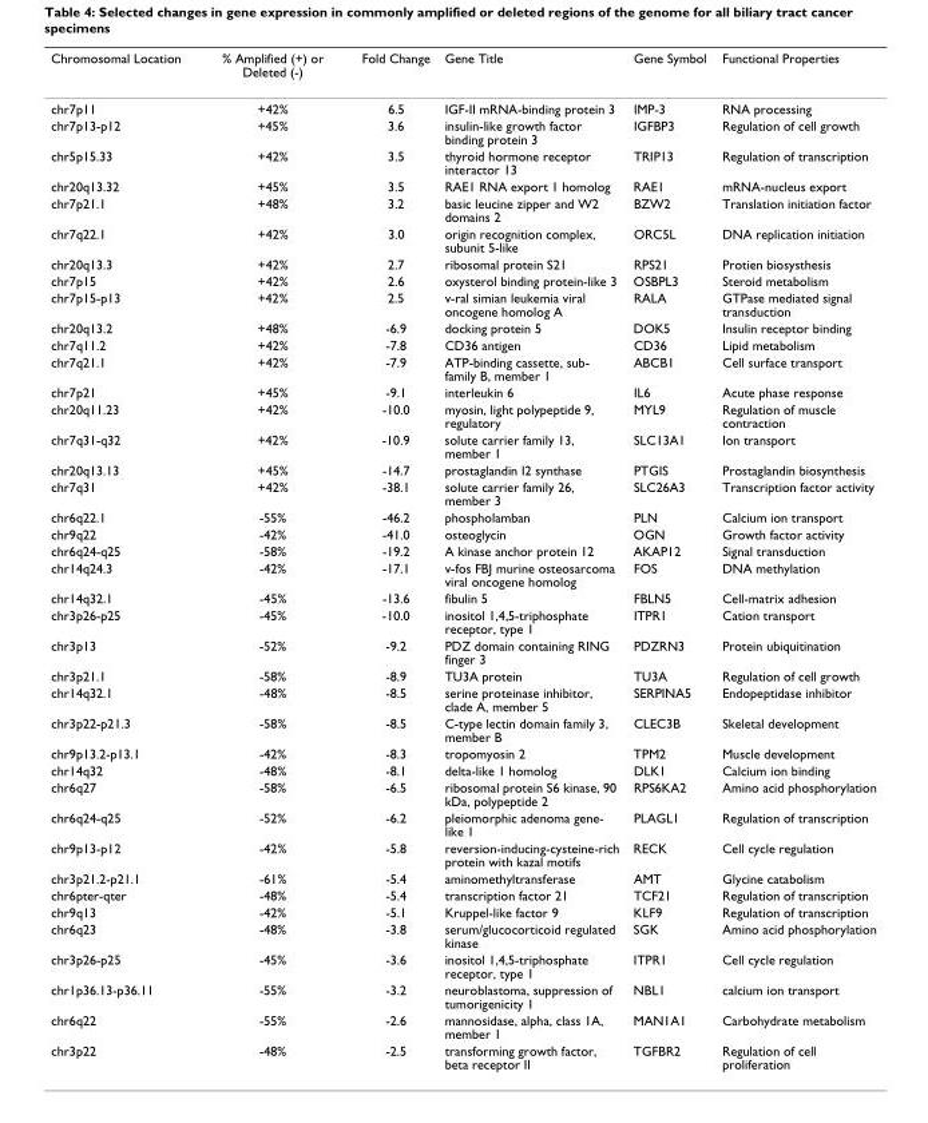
<table><thead><tr><td>Chromosomal Location</td><td>% Amplified (+) or Deleted (-)</td><td>Fold Change</td><td>Gene Title</td><td>Gene Symbol</td><td>Functional Properties</td></tr></thead><tbody><tr><td>chr7p11</td><td>+42%</td><td>6.5</td><td>IGF-II mRNA-binding protein 3</td><td>IMP-3</td><td>RNA processing</td></tr><tr><td>chr7p13-p12</td><td>+45%</td><td>3.6</td><td>insulin-like growth factor binding protein 3</td><td>IGFBP3</td><td>Regulation of cell growth</td></tr><tr><td>chr5p15.33</td><td>+42%</td><td>3.5</td><td>thyroid hormone receptor interactor 13</td><td>TRIP13</td><td>Regulation of transcription</td></tr><tr><td>chr20q13.32</td><td>+45%</td><td>3.5</td><td>RAE1 RNA export 1 homolog</td><td>RAE1</td><td>mRNA-nucleus export</td></tr><tr><td>chr7p21.1</td><td>+48%</td><td>3.2</td><td>basic leucine zipper and W2 domains 2</td><td>BZW2</td><td>Translation initiation factor</td></tr><tr><td>chr7q22.1</td><td>+42%</td><td>3.0</td><td>origin recognition complex, subunit 5-like</td><td>ORC5L</td><td>DNA replication initiation</td></tr><tr><td>chr20q13.3</td><td>+42%</td><td>2.7</td><td>ribosomal protein S21</td><td>RPS21</td><td>Protien biosysthesis</td></tr><tr><td>chr7p15</td><td>+42%</td><td>2.6</td><td>oxysterol binding protein-like 3</td><td>OSBPL3</td><td>Steroid metabolism</td></tr><tr><td>chr7p15-p13</td><td>+42%</td><td>2.5</td><td>v-ral simian leukemia viral oncogene homolog A</td><td>RALA</td><td>GTPase mediated signal transduction</td></tr><tr><td>chr20q13.2</td><td>+48%</td><td>-6.9</td><td>docking protein 5</td><td>DOK5</td><td>Insulin receptor binding</td></tr><tr><td>chr7q11.2</td><td>+42%</td><td>-7.8</td><td>CD36 antigen</td><td>CD36</td><td>Lipid metabolism</td></tr><tr><td>chr7q21.1</td><td>+42%</td><td>-7.9</td><td>ATP-binding cassette, sub- family B, member 1</td><td>ABCB1</td><td>Cell surface transport</td></tr><tr><td>chr7p21</td><td>+45%</td><td>-9.1</td><td>interleukin 6</td><td>IL6</td><td>Acute phase response</td></tr><tr><td>chr20q11.23</td><td>+42%</td><td>-10.0</td><td>myosin, light polypeptide 9, regulatory</td><td>MYL9</td><td>Regulation of muscle contraction</td></tr><tr><td>chr7q31-q32</td><td>+42%</td><td>-10.9</td><td>solute carrier family 13, member 1</td><td>SLC13A1</td><td>Ion transport</td></tr><tr><td>chr20q13.13</td><td>+45%</td><td>-14.7</td><td>prostaglandin I2 synthase</td><td>PTGIS</td><td>Prostaglandin biosynthesis</td></tr><tr><td>chr7q31</td><td>+42%</td><td>-38.1</td><td>solute carrier family 26, member 3</td><td>SLC26A3</td><td>Transcription factor activity</td></tr><tr><td>chr6q22.1</td><td>-55%</td><td>-46.2</td><td>phospholamban</td><td>PLN</td><td>Calcium ion transport</td></tr><tr><td>chr9q22</td><td>-42%</td><td>-41.0</td><td>osteoglycin</td><td>OGN</td><td>Growth factor activity</td></tr><tr><td>chr6q24-q25</td><td>-58%</td><td>-19.2</td><td>A kinase anchor protein 12</td><td>AKAP12</td><td>Signal transduction</td></tr><tr><td>chr14q24.3</td><td>-42%</td><td>-17.1</td><td>v-fos FBJ murine osteosarcoma viral oncogene homolog</td><td>FOS</td><td>DNA methylation</td></tr><tr><td>chr14q32.1</td><td>-45%</td><td>-13.6</td><td>fibulin 5</td><td>FBLN5</td><td>Cell-matrix adhesion</td></tr><tr><td>chr3p26-p25</td><td>-45%</td><td>-10.0</td><td>inositol 1,4,5-triphosphate receptor, type 1</td><td>ITPR1</td><td>Cation transport</td></tr><tr><td>chr3p13</td><td>-52%</td><td>-9.2</td><td>PDZ domain containing RING finger 3</td><td>PDZRN3</td><td>Protein ubiquitination</td></tr><tr><td>chr3p21.1</td><td>-58%</td><td>-8.9</td><td>TU3A protein</td><td>TU3A</td><td>Regulation of cell growth</td></tr><tr><td>chr14q32.1</td><td>-48%</td><td>-8.5</td><td>serine proteinase inhibitor, clade A, member 5</td><td>SERPINA5</td><td>Endopeptidase inhibitor</td></tr><tr><td>chr3p22-p21.3</td><td>-58%</td><td>-8.5</td><td>C-type lectin domain family 3, member B</td><td>CLEC3B</td><td>Skeletal development</td></tr><tr><td>chr9p13.2-p13.1</td><td>-42%</td><td>-8.3</td><td>tropomyosin 2</td><td>TPM2</td><td>Muscle development</td></tr><tr><td>chr14q32</td><td>-48%</td><td>-8.1</td><td>delta-like 1 homolog</td><td>DLK1</td><td>Calcium ion binding</td></tr><tr><td>chr6q27</td><td>-58%</td><td>-6.5</td><td>ribosomal protein S6 kinase, 90 kDa, polypeptide 2</td><td>RPS6KA2</td><td>Amino acid phosphorylation</td></tr><tr><td>chr6q24-q25</td><td>-52%</td><td>-6.2</td><td>pleiomorphic adenoma gene- like 1</td><td>PLAGL1</td><td>Regulation of transcription</td></tr><tr><td>chr9p13-p12</td><td>-42%</td><td>-5.8</td><td>reversion-inducing-cysteine-rich protein with kazal motifs</td><td>RECK</td><td>Cell cycle regulation</td></tr><tr><td>chr3p21.2-p21.1</td><td>-61%</td><td>-5.4</td><td>aminomethyltransferase</td><td>AMT</td><td>Glycine catabolism</td></tr><tr><td>chr6pter-qter</td><td>-48%</td><td>-5.4</td><td>transcription factor 21</td><td>TCF21</td><td>Regulation of transcription</td></tr><tr><td>chr9q13</td><td>-42%</td><td>-5.1</td><td>Kruppel-like factor 9</td><td>KLF9</td><td>Regulation of transcription</td></tr><tr><td>chr6q23</td><td>-48%</td><td>-3.8</td><td>serum/glucocorticoid regulated kinase</td><td>SGK</td><td>Amino acid phosphorylation</td></tr><tr><td>chr3p26-p25</td><td>-45%</td><td>-3.6</td><td>inositol 1,4,5-triphosphate receptor, type 1</td><td>ITPR1</td><td>Cell cycle regulation</td></tr><tr><td>chr1p36.13-p36.11</td><td>-55%</td><td>-3.2</td><td>neuroblastoma, suppression of tumorigenicity 1</td><td>NBL1</td><td>calcium ion transport</td></tr><tr><td>chr6q22</td><td>-55%</td><td>-2.6</td><td>mannosidase, alpha, class 1A, member 1</td><td>MAN1A1</td><td>Carbohydrate metabolism</td></tr><tr><td>chr3p22</td><td>-48%</td><td>-2.5</td><td>transforming growth factor, beta receptor II</td><td>TGFBR2</td><td>Regulation of cell proliferation</td></tr></tbody></table>